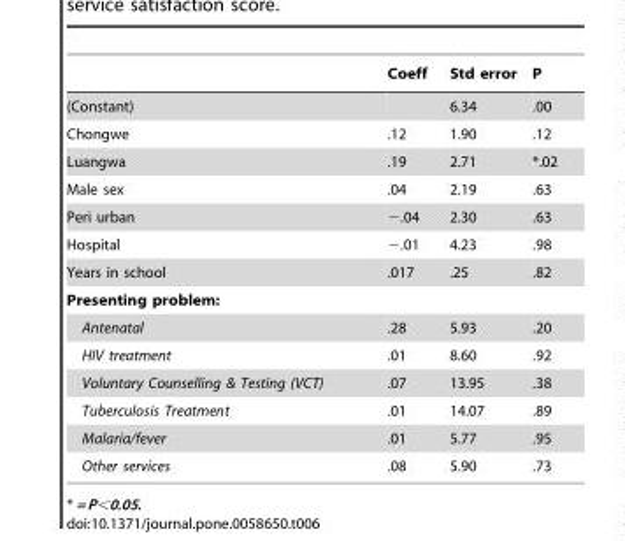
<table><thead><tr><td></td><td>Coeff</td><td>Std error</td><td>P</td></tr></thead><tbody><tr><td>(Constant)</td><td></td><td>6.34</td><td>.00</td></tr><tr><td>Chongwe</td><td>.12</td><td>1.90</td><td>.12</td></tr><tr><td>Luangwa</td><td>.19</td><td>2.71</td><td>*.02</td></tr><tr><td>Male sex</td><td>.04</td><td>2.19</td><td>.63</td></tr><tr><td>Peri urban</td><td>−.04</td><td>2.30</td><td>.63</td></tr><tr><td>Hospital</td><td>−.01</td><td>4.23</td><td>.98</td></tr><tr><td>Years in school</td><td>.017</td><td>.25</td><td>.82</td></tr><tr><td colspan="4">Presenting problem:</td></tr><tr><td>Antenatal</td><td>.28</td><td>5.93</td><td>.20</td></tr><tr><td>HIV treatment</td><td>.01</td><td>8.60</td><td>.92</td></tr><tr><td>Voluntary Counselling &amp; Testing (VCT)</td><td>.07</td><td>13.95</td><td>.38</td></tr><tr><td>Tuberculosis Treatment</td><td>.01</td><td>14.07</td><td>.89</td></tr><tr><td>Malaria/fever</td><td>.01</td><td>5.77</td><td>.95</td></tr><tr><td>Other services</td><td>.08</td><td>5.90</td><td>.73</td></tr></tbody></table>